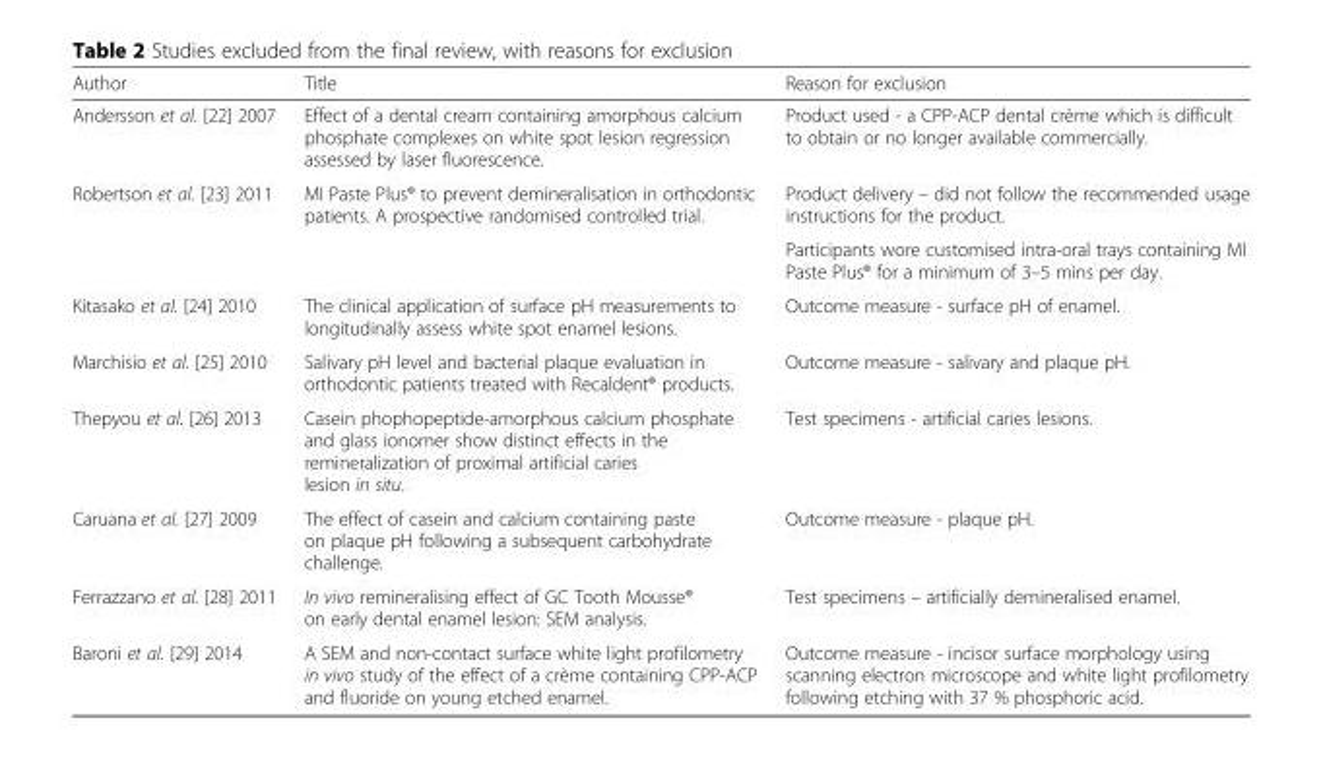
<table><thead><tr><td>Author</td><td>Title</td><td>Reason for exclusion</td></tr></thead><tbody><tr><td>Andersson et al. [22] 2007</td><td>Effect of a dental cream containing amorphous calcium phosphate complexes on white spot lesion regression assessed by laser fluorescence.</td><td>Product used - a CPP-ACP dental crème which is difficult to obtain or no longer available commercially.</td></tr><tr><td rowspan="2">Robertson et al. [23] 2011</td><td rowspan="2">MI Paste Plus® to prevent demineralisation in orthodontic patients. A prospective randomised controlled trial.</td><td>Product delivery – did not follow the recommended usage instructions for the product.</td></tr><tr><td>Participants wore customised intra-oral trays containing MI Paste Plus® for a minimum of 3–5 mins per day.</td></tr><tr><td>Kitasako et al. [24] 2010</td><td>The clinical application of surface pH measurements to longitudinally assess white spot enamel lesions.</td><td>Outcome measure - surface pH of enamel.</td></tr><tr><td>Marchisio et al. [25] 2010</td><td>Salivary pH level and bacterial plaque evaluation in orthodontic patients treated with Recaldent® products.</td><td>Outcome measure - salivary and plaque pH.</td></tr><tr><td>Thepyou et al. [26] 2013</td><td>Casein phophopeptide-amorphous calcium phosphate and glass ionomer show distinct effects in the remineralization of proximal artificial caries lesion in situ.</td><td>Test specimens - artificial caries lesions.</td></tr><tr><td>Caruana et al. [27] 2009</td><td>The effect of casein and calcium containing paste on plaque pH following a subsequent carbohydrate challenge.</td><td>Outcome measure - plaque pH.</td></tr><tr><td>Ferrazzano et al. [28] 2011</td><td>In vivo remineralising effect of GC Tooth Mousse® on early dental enamel lesion: SEM analysis.</td><td>Test specimens – artificially demineralised enamel.</td></tr><tr><td>Baroni et al. [29] 2014</td><td>A SEM and non-contact surface white light profilometry in vivo study of the effect of a crème containing CPP-ACP and fluoride on young etched enamel.</td><td>Outcome measure - incisor surface morphology using scanning electron microscope and white light profilometry following etching with 37 % phosphoric acid.</td></tr></tbody></table>